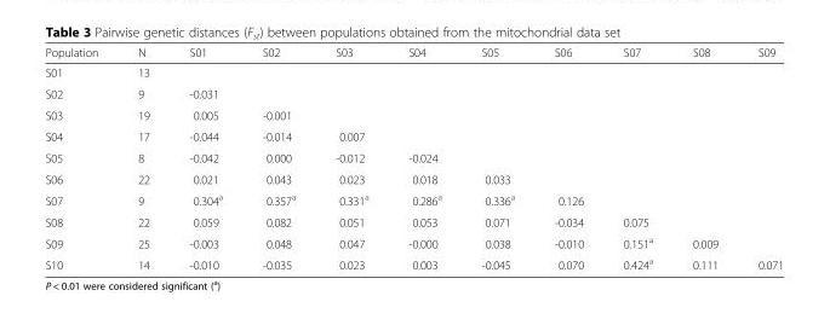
<table><thead><tr><td>Population</td><td>N</td><td>S01</td><td>S02</td><td>S03</td><td>S04</td><td>S05</td><td>S06</td><td>S07</td><td>S08</td><td>S09</td></tr></thead><tbody><tr><td>S01</td><td>13</td><td></td><td></td><td></td><td></td><td></td><td></td><td></td><td></td><td></td></tr><tr><td>S02</td><td>9</td><td>-0.031</td><td></td><td></td><td></td><td></td><td></td><td></td><td></td><td></td></tr><tr><td>S03</td><td>19</td><td>0.005</td><td>-0.001</td><td></td><td></td><td></td><td></td><td></td><td></td><td></td></tr><tr><td>S04</td><td>17</td><td>-0.044</td><td>-0.014</td><td>0.007</td><td></td><td></td><td></td><td></td><td></td><td></td></tr><tr><td>S05</td><td>8</td><td>-0.042</td><td>0.000</td><td>-0.012</td><td>-0.024</td><td></td><td></td><td></td><td></td><td></td></tr><tr><td>S06</td><td>22</td><td>0.021</td><td>0.043</td><td>0.023</td><td>0.018</td><td>0.033</td><td></td><td></td><td></td><td></td></tr><tr><td>S07</td><td>9</td><td>0.304<sup>a</sup></td><td>0.357<sup>a</sup></td><td>0.331<sup>a</sup></td><td>0.286<sup>a</sup></td><td>0.336<sup>a</sup></td><td>0.126</td><td></td><td></td><td></td></tr><tr><td>S08</td><td>22</td><td>0.059</td><td>0.082</td><td>0.051</td><td>0.053</td><td>0.071</td><td>-0.034</td><td>0.075</td><td></td><td></td></tr><tr><td>S09</td><td>25</td><td>-0.003</td><td>0.048</td><td>0.047</td><td>-0.000</td><td>0.038</td><td>-0.010</td><td>0.151<sup>a</sup></td><td>0.009</td><td></td></tr><tr><td>S10</td><td>14</td><td>-0.010</td><td>-0.035</td><td>0.023</td><td>0.003</td><td>-0.045</td><td>0.070</td><td>0.424<sup>a</sup></td><td>0.111</td><td>0.071</td></tr></tbody></table>